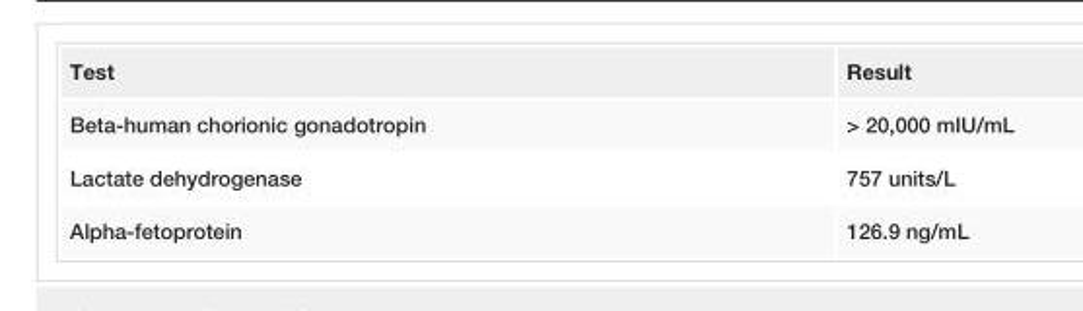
<table><tbody><tr><td>Test</td><td>Result</td></tr><tr><td>Beta-human chorionic gonadotropin</td><td>&gt; 20,000 mIU/mL</td></tr><tr><td>Lactate dehydrogenase</td><td>757 units/L</td></tr><tr><td>Alpha-fetoprotein</td><td>126.9 ng/mL</td></tr></tbody></table>